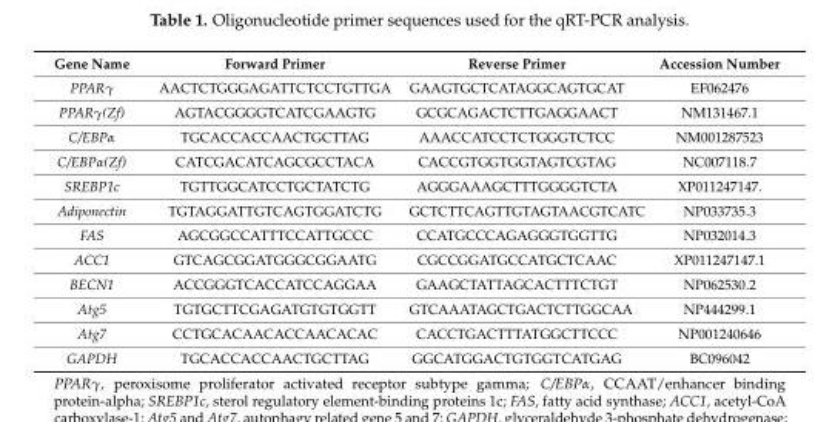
<table><thead><tr><td>Gene Name</td><td>Forward Primer</td><td>Reverse Primer</td><td>Accession Number</td></tr></thead><tbody><tr><td>PPARγ</td><td>AACTCTGGGAGATTCTCCTGTTGA</td><td>GAAGTGCTCATAGGCAGTGCAT</td><td>EF062476</td></tr><tr><td>PPARγ(Zf)</td><td>AGTACGGGGTCATCGAAGTG</td><td>GCGCAGACTCTTGAGGAACT</td><td>NM131467.1</td></tr><tr><td>C/EBPα</td><td>TGCACCACCAACTGCTTAG</td><td>AAACCATCCTCTGGGTCTCC</td><td>NM001287523</td></tr><tr><td>C/EBPα(Zf)</td><td>CATCGACATCAGCGCCTACA</td><td>CACCGTGGTGGTAGTCGTAG</td><td>NC007118.7</td></tr><tr><td>SREBP1c</td><td>TGTTGGCATCCTGCTATCTG</td><td>AGGGAAAGCTTTGGGGTCTA</td><td>XP011247147.</td></tr><tr><td>Adiponectin</td><td>TGTAGGATTGTCAGTGGATCTG</td><td>GCTCTTCAGTTGTAGTAACGTCATC</td><td>NP033735.3</td></tr><tr><td>FAS</td><td>AGCGGCCATTTCCATTGCCC</td><td>CCATGCCCAGAGGGTGGTTG</td><td>NP032014.3</td></tr><tr><td>ACC1</td><td>GTCAGCGGATGGGCGGAATG</td><td>CGCCGGATGCCATGCTCAAC</td><td>XP011247147.1</td></tr><tr><td>BECN1</td><td>ACCGGGTCACCATCCAGGAA</td><td>GAAGCTATTAGCACTTTCTGT</td><td>NP062530.2</td></tr><tr><td>Atg5</td><td>TGTGCTTCGAGATGTGTGGTT</td><td>GTCAAATAGCTGACTCTTGGCAA</td><td>NP444299.1</td></tr><tr><td>Atg7</td><td>CCTGCACAACACCAACACAC</td><td>CACCTGACTTTATGGCTTCCC</td><td>NP001240646</td></tr><tr><td>GAPDH</td><td>TGCACCACCAACTGCTTAG</td><td>GGCATGGACTGTGGTCATGAG</td><td>BC096042</td></tr></tbody></table>